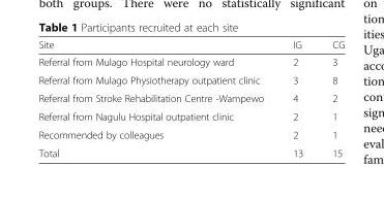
<table><thead><tr><td>Site</td><td>IG</td><td>CG</td></tr></thead><tbody><tr><td>Referral from Mulago Hospital neurology ward</td><td>2</td><td>3</td></tr><tr><td>Referral from Mulago Physiotherapy outpatient clinic</td><td>3</td><td>8</td></tr><tr><td>Referral from Stroke Rehabilitation Centre -Wampewo</td><td>4</td><td>2</td></tr><tr><td>Referral from Nagulu Hospital outpatient clinic</td><td>2</td><td>1</td></tr><tr><td>Recommended by colleagues</td><td>2</td><td>1</td></tr><tr><td>Total</td><td>13</td><td>15</td></tr></tbody></table>